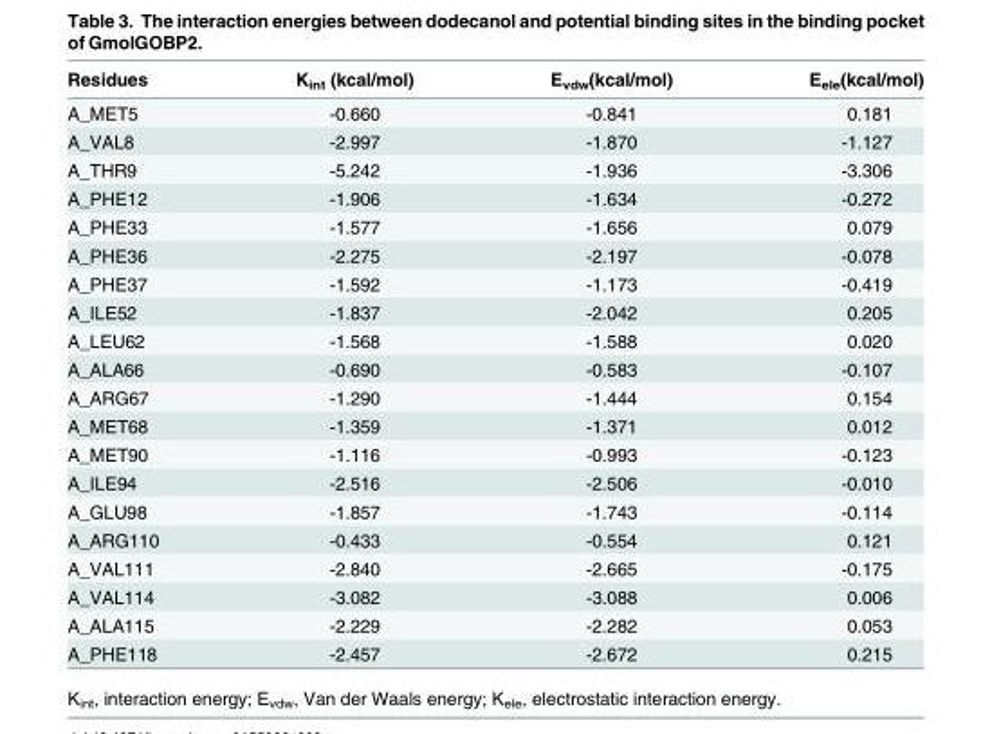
<table><thead><tr><td>Residues</td><td>K<sub>int</sub> (kcal/mol)</td><td>E<sub>vdw</sub>(kcal/mol)</td><td>E<sub>ele</sub>(kcal/mol)</td></tr></thead><tbody><tr><td>A_MET5</td><td>-0.660</td><td>-0.841</td><td>0.181</td></tr><tr><td>A_VAL8</td><td>-2.997</td><td>-1.870</td><td>-1.127</td></tr><tr><td>A_THR9</td><td>-5.242</td><td>-1.936</td><td>-3.306</td></tr><tr><td>A_PHE12</td><td>-1.906</td><td>-1.634</td><td>-0.272</td></tr><tr><td>A_PHE33</td><td>-1.577</td><td>-1.656</td><td>0.079</td></tr><tr><td>A_PHE36</td><td>-2.275</td><td>-2.197</td><td>-0.078</td></tr><tr><td>A_PHE37</td><td>-1.592</td><td>-1.173</td><td>-0.419</td></tr><tr><td>A_ILE52</td><td>-1.837</td><td>-2.042</td><td>0.205</td></tr><tr><td>A_LEU62</td><td>-1.568</td><td>-1.588</td><td>0.020</td></tr><tr><td>A_ALA66</td><td>-0.690</td><td>-0.583</td><td>-0.107</td></tr><tr><td>A_ARG67</td><td>-1.290</td><td>-1.444</td><td>0.154</td></tr><tr><td>A_MET68</td><td>-1.359</td><td>-1.371</td><td>0.012</td></tr><tr><td>A_MET90</td><td>-1.116</td><td>-0.993</td><td>-0.123</td></tr><tr><td>A_ILE94</td><td>-2.516</td><td>-2.506</td><td>-0.010</td></tr><tr><td>A_GLU98</td><td>-1.857</td><td>-1.743</td><td>-0.114</td></tr><tr><td>A_ARG110</td><td>-0.433</td><td>-0.554</td><td>0.121</td></tr><tr><td>A_VAL111</td><td>-2.840</td><td>-2.665</td><td>-0.175</td></tr><tr><td>A_VAL114</td><td>-3.082</td><td>-3.088</td><td>0.006</td></tr><tr><td>A_ALA115</td><td>-2.229</td><td>-2.282</td><td>0.053</td></tr><tr><td>A_PHE118</td><td>-2.457</td><td>-2.672</td><td>0.215</td></tr></tbody></table>